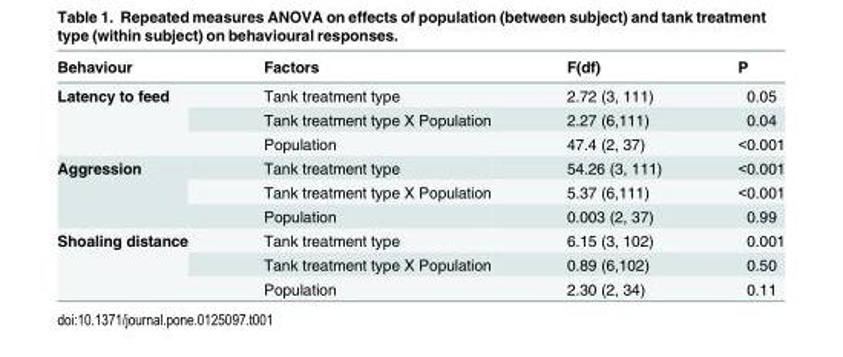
<table><thead><tr><td>Behaviour</td><td>Factors</td><td>F(df)</td><td>P</td></tr></thead><tbody><tr><td rowspan="3">Latency to feed</td><td>Tank treatment type</td><td>2.72 (3, 111)</td><td>0.05</td></tr><tr><td>Tank treatment type X Population</td><td>2.27 (6,111)</td><td>0.04</td></tr><tr><td>Population</td><td>47.4 (2, 37)</td><td>&lt;0.001</td></tr><tr><td rowspan="3">Aggression</td><td>Tank treatment type</td><td>54.26 (3, 111)</td><td>&lt;0.001</td></tr><tr><td>Tank treatment type X Population</td><td>5.37 (6,111)</td><td>&lt;0.001</td></tr><tr><td>Population</td><td>0.003 (2, 37)</td><td>0.99</td></tr><tr><td rowspan="3">Shoaling distance</td><td>Tank treatment type</td><td>6.15 (3, 102)</td><td>0.001</td></tr><tr><td>Tank treatment type X Population</td><td>0.89 (6,102)</td><td>0.50</td></tr><tr><td>Population</td><td>2.30 (2, 34)</td><td>0.11</td></tr></tbody></table>